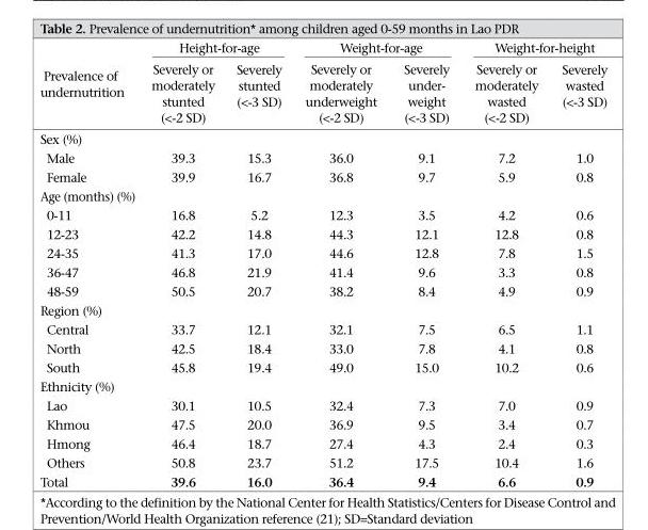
<table><thead><tr><td rowspan="2">Prevalence of undernutrition</td><td colspan="2">Height-for-age</td><td colspan="2">Weight-for-age</td><td colspan="2">Weight-for-height</td></tr><tr><td>Severely or moderately stunted (&lt;-2 SD)</td><td>Severely stunted (&lt;-3 SD)</td><td>Severely or moderately underweight (&lt;-2 SD)</td><td>Severely under- weight (&lt;-3 SD)</td><td>Severely or moderately wasted (&lt;-2 SD)</td><td>Severely wasted (&lt;-3 SD)</td></tr></thead><tbody><tr><td colspan="7">Sex (%)</td></tr><tr><td>Male</td><td>39.3</td><td>15.3</td><td>36.0</td><td>9.1</td><td>7.2</td><td>1.0</td></tr><tr><td>Female</td><td>39.9</td><td>16.7</td><td>36.8</td><td>9.7</td><td>5.9</td><td>0.8</td></tr><tr><td colspan="7">Age (months) (%)</td></tr><tr><td>0-11</td><td>16.8</td><td>5.2</td><td>12.3</td><td>3.5</td><td>4.2</td><td>0.6</td></tr><tr><td>12-23</td><td>42.2</td><td>14.8</td><td>44.3</td><td>12.1</td><td>12.8</td><td>0.8</td></tr><tr><td>24-35</td><td>41.3</td><td>17.0</td><td>44.6</td><td>12.8</td><td>7.8</td><td>1.5</td></tr><tr><td>36-47</td><td>46.8</td><td>21.9</td><td>41.4</td><td>9.6</td><td>3.3</td><td>0.8</td></tr><tr><td>48-59</td><td>50.5</td><td>20.7</td><td>38.2</td><td>8.4</td><td>4.9</td><td>0.9</td></tr><tr><td colspan="7">Region (%)</td></tr><tr><td>Central</td><td>33.7</td><td>12.1</td><td>32.1</td><td>7.5</td><td>6.5</td><td>1.1</td></tr><tr><td>North</td><td>42.5</td><td>18.4</td><td>33.0</td><td>7.8</td><td>4.1</td><td>0.8</td></tr><tr><td>South</td><td>45.8</td><td>19.4</td><td>49.0</td><td>15.0</td><td>10.2</td><td>0.6</td></tr><tr><td colspan="7">Ethnicity (%)</td></tr><tr><td>Lao</td><td>30.1</td><td>10.5</td><td>32.4</td><td>7.3</td><td>7.0</td><td>0.9</td></tr><tr><td>Khmou</td><td>47.5</td><td>20.0</td><td>36.9</td><td>9.5</td><td>3.4</td><td>0.7</td></tr><tr><td>Hmong</td><td>46.4</td><td>18.7</td><td>27.4</td><td>4.3</td><td>2.4</td><td>0.3</td></tr><tr><td>Others</td><td>50.8</td><td>23.7</td><td>51.2</td><td>17.5</td><td>10.4</td><td>1.6</td></tr><tr><td>Total</td><td>39.6</td><td>16.0</td><td>36.4</td><td>9.4</td><td>6.6</td><td>0.9</td></tr></tbody></table>